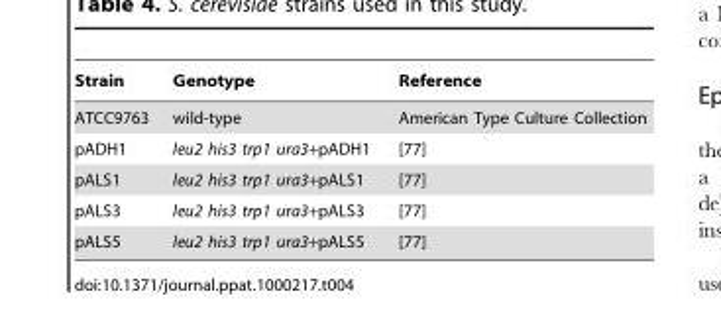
<table><thead><tr><td>Strain</td><td>Genotype</td><td>Reference</td></tr></thead><tbody><tr><td>ATCC9763</td><td>wild-type</td><td>American Type Culture Collection</td></tr><tr><td>pADH1</td><td>leu2 his3 trp1 ura3+pADH1</td><td>[77]</td></tr><tr><td>pALS1</td><td>leu2 his3 trp1 ura3+pALS1</td><td>[77]</td></tr><tr><td>pALS3</td><td>leu2 his3 trp1 ura3+pALS3</td><td>[77]</td></tr><tr><td>pALS5</td><td>leu2 his3 trp1 ura3+pALS5</td><td>[77]</td></tr></tbody></table>